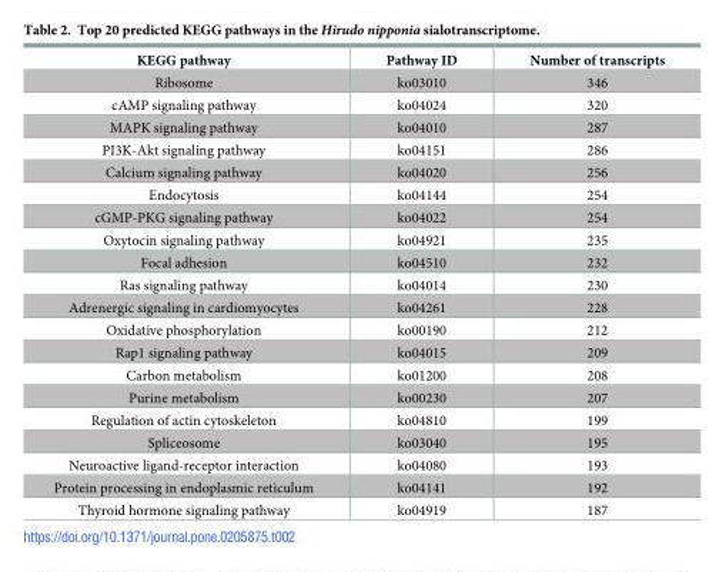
<table><thead><tr><td>KEGG pathway</td><td>Pathway ID</td><td>Number of transcripts</td></tr></thead><tbody><tr><td>Ribosome</td><td>ko03010</td><td>346</td></tr><tr><td>cAMP signaling pathway</td><td>ko04024</td><td>320</td></tr><tr><td>MAPK signaling pathway</td><td>ko04010</td><td>287</td></tr><tr><td>PI3K-Akt signaling pathway</td><td>ko04151</td><td>286</td></tr><tr><td>Calcium signaling pathway</td><td>ko04020</td><td>256</td></tr><tr><td>Endocytosis</td><td>ko04144</td><td>254</td></tr><tr><td>cGMP-PKG signaling pathway</td><td>ko04022</td><td>254</td></tr><tr><td>Oxytocin signaling pathway</td><td>ko04921</td><td>235</td></tr><tr><td>Focal adhesion</td><td>ko04510</td><td>232</td></tr><tr><td>Ras signaling pathway</td><td>ko04014</td><td>230</td></tr><tr><td>Adrenergic signaling in cardiomyocytes</td><td>ko04261</td><td>228</td></tr><tr><td>Oxidative phosphorylation</td><td>ko00190</td><td>212</td></tr><tr><td>Rap1 signaling pathway</td><td>ko04015</td><td>209</td></tr><tr><td>Carbon metabolism</td><td>ko01200</td><td>208</td></tr><tr><td>Purine metabolism</td><td>ko00230</td><td>207</td></tr><tr><td>Regulation of actin cytoskeleton</td><td>ko04810</td><td>199</td></tr><tr><td>Spliceosome</td><td>ko03040</td><td>195</td></tr><tr><td>Neuroactive ligand-receptor interaction</td><td>ko04080</td><td>193</td></tr><tr><td>Protein processing in endoplasmic reticulum</td><td>ko04141</td><td>192</td></tr><tr><td>Thyroid hormone signaling pathway</td><td>ko04919</td><td>187</td></tr></tbody></table>